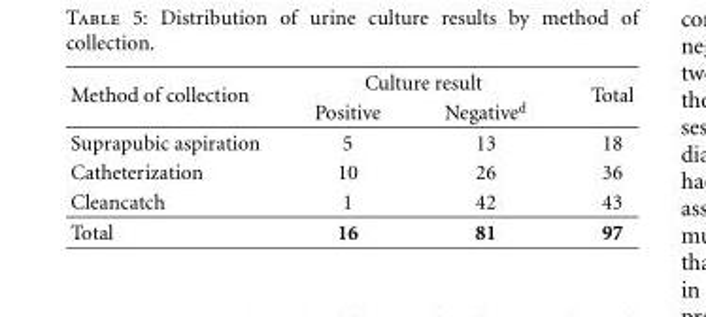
<table><thead><tr><td rowspan="2">Method of collection</td><td colspan="2">Culture result</td><td rowspan="2">Total</td></tr><tr><td>Positive</td><td>Negative<sup>d</sup></td></tr></thead><tbody><tr><td>Suprapubic aspiration</td><td>5</td><td>13</td><td>18</td></tr><tr><td>Catheterization</td><td>10</td><td>26</td><td>36</td></tr><tr><td>Cleancatch</td><td>1</td><td>42</td><td>43</td></tr><tr><td>Total</td><td>16</td><td>81</td><td>97</td></tr></tbody></table>